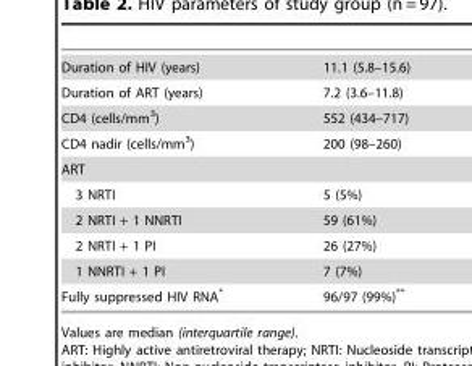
<table><tbody><tr><td>Duration of HIV (years)</td><td>11.1 (5.8–15.6)</td></tr><tr><td>Duration of ART (years)</td><td>7.2 (3.6–11.8)</td></tr><tr><td>CD4 (cells/mm<sup>3</sup>)</td><td>552 (434–717)</td></tr><tr><td>CD4 nadir (cells/mm<sup>3</sup>)</td><td>200 (98–260)</td></tr><tr><td colspan="2">ART</td></tr><tr><td>3 NRTI</td><td>5 (5%)</td></tr><tr><td>2 NRTI + 1 NNRTI</td><td>59 (61%)</td></tr><tr><td>2 NRTI + 1 PI</td><td>26 (27%)</td></tr><tr><td>1 NNRTI + 1 PI</td><td>7 (7%)</td></tr><tr><td>Fully suppressed HIV RNA*</td><td>96/97 (99%)**</td></tr></tbody></table>